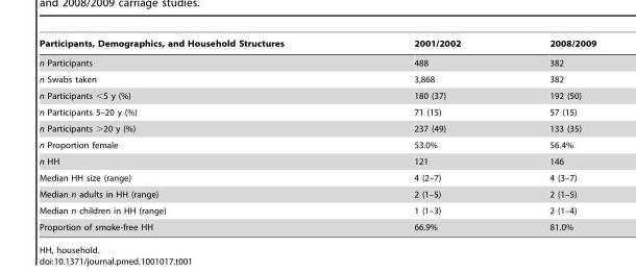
<table><thead><tr><td>Participants, Demographics, and Household Structures</td><td>2001/2002</td><td>2008/2009</td></tr></thead><tbody><tr><td>n Participants</td><td>488</td><td>382</td></tr><tr><td>n Swabs taken</td><td>3,868</td><td>382</td></tr><tr><td>n Participants &lt;5 y (%)</td><td>180 (37)</td><td>192 (50)</td></tr><tr><td>n Participants 5–20 y (%)</td><td>71 (15)</td><td>57 (15)</td></tr><tr><td>n Participants &gt;20 y (%)</td><td>237 (49)</td><td>133 (35)</td></tr><tr><td>n Proportion female</td><td>53.0%</td><td>56.4%</td></tr><tr><td>n HH</td><td>121</td><td>146</td></tr><tr><td>Median HH size (range)</td><td>4 (2–7)</td><td>4 (3–7)</td></tr><tr><td>Median n adults in HH (range)</td><td>2 (1–5)</td><td>2 (1–5)</td></tr><tr><td>Median n children in HH (range)</td><td>1 (1–3)</td><td>2 (1–4)</td></tr><tr><td>Proportion of smoke-free HH</td><td>66.9%</td><td>81.0%</td></tr></tbody></table>